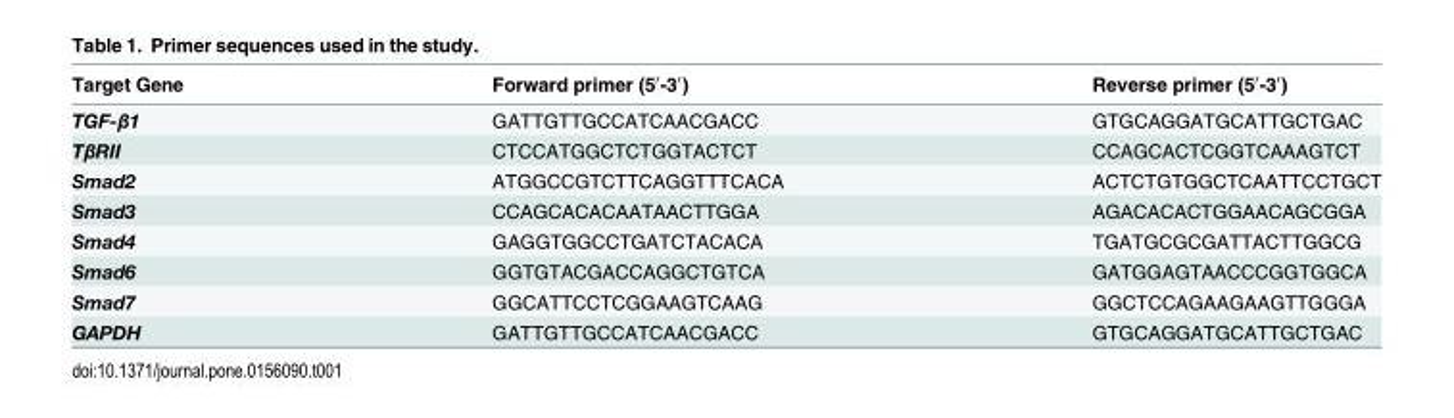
<table><thead><tr><td>Target Gene</td><td>Forward primer (5′-3′)</td><td>Reverse primer (5′-3′)</td></tr></thead><tbody><tr><td>TGF-β1</td><td>GATTGTTGCCATCAACGACC</td><td>GTGCAGGATGCATTGCTGAC</td></tr><tr><td>TβRII</td><td>CTCCATGGCTCTGGTACTCT</td><td>CCAGCACTCGGTCAAAGTCT</td></tr><tr><td>Smad2</td><td>ATGGCCGTCTTCAGGTTTCACA</td><td>ACTCTGTGGCTCAATTCCTGCT</td></tr><tr><td>Smad3</td><td>CCAGCACACAATAACTTGGA</td><td>AGACACACTGGAACAGCGGA</td></tr><tr><td>Smad4</td><td>GAGGTGGCCTGATCTACACA</td><td>TGATGCGCGATTACTTGGCG</td></tr><tr><td>Smad6</td><td>GGTGTACGACCAGGCTGTCA</td><td>GATGGAGTAACCCGGTGGCA</td></tr><tr><td>Smad7</td><td>GGCATTCCTCGGAAGTCAAG</td><td>GGCTCCAGAAGAAGTTGGGA</td></tr><tr><td>GAPDH</td><td>GATTGTTGCCATCAACGACC</td><td>GTGCAGGATGCATTGCTGAC</td></tr></tbody></table>